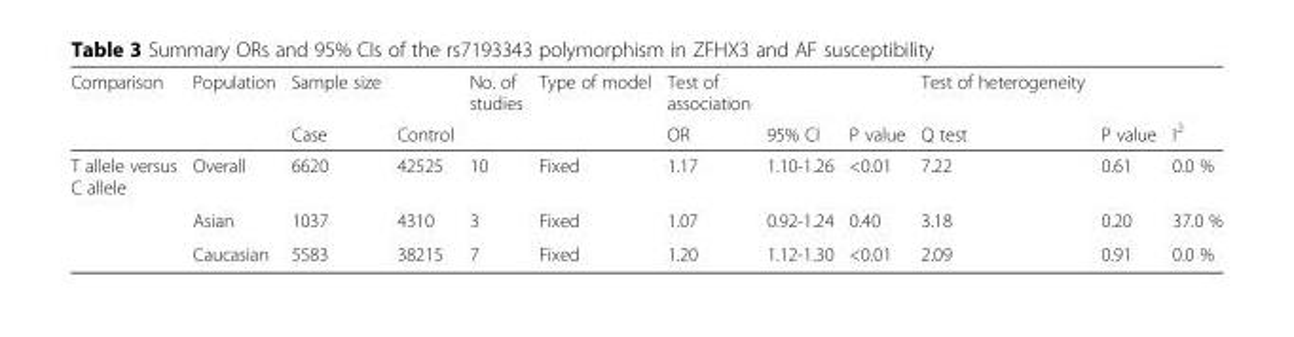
<table><thead><tr><td rowspan="2">Comparison</td><td rowspan="2">Population</td><td rowspan="2">Sample size Case</td><td rowspan="2">Control</td><td rowspan="2">No. of studies</td><td rowspan="2">Type of model</td><td rowspan="2">Test of association OR</td><td rowspan="2">95% CI</td><td rowspan="2">P value</td><td rowspan="2">Test of heterogeneity Q test</td><td rowspan="2">P value</td><td rowspan="2">I<sup>2</sup></td></tr><tr></tr></thead><tbody><tr><td rowspan="3">T allele versus C allele</td><td>Overall</td><td>6620</td><td>42525</td><td>10</td><td>Fixed</td><td>1.17</td><td>1.10-1.26</td><td>&lt;0.01</td><td>7.22</td><td>0.61</td><td>0.0 %</td></tr><tr><td>Asian</td><td>1037</td><td>4310</td><td>3</td><td>Fixed</td><td>1.07</td><td>0.92-1.24</td><td>0.40</td><td>3.18</td><td>0.20</td><td>37.0 %</td></tr><tr><td>Caucasian</td><td>5583</td><td>38215</td><td>7</td><td>Fixed</td><td>1.20</td><td>1.12-1.30</td><td>&lt;0.01</td><td>2.09</td><td>0.91</td><td>0.0 %</td></tr></tbody></table>